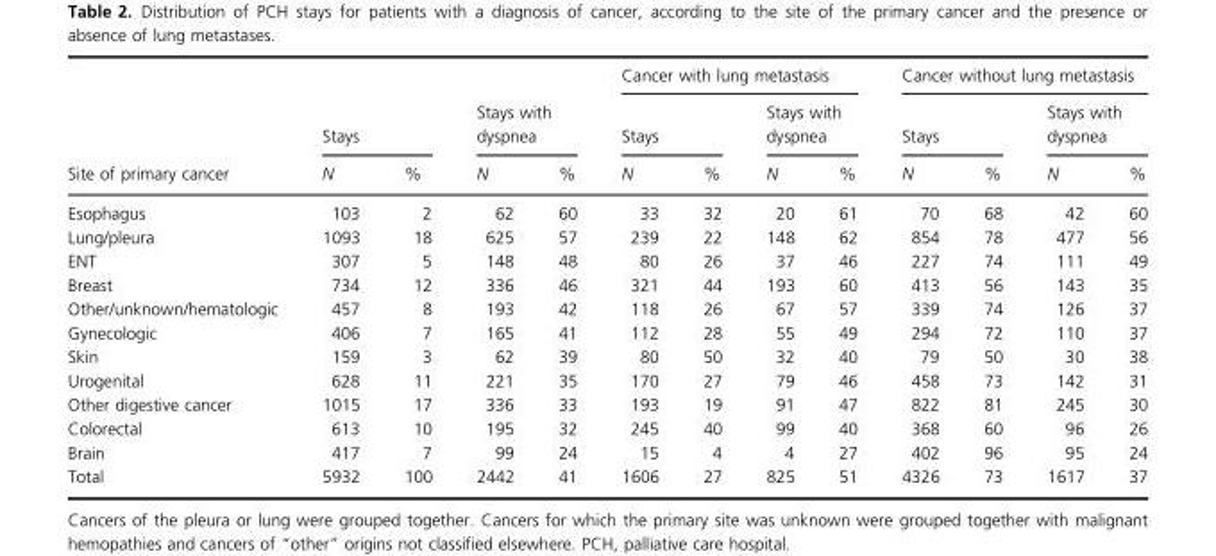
<table><thead><tr><td rowspan="3">Site of primary cancer</td><td></td><td></td><td></td><td></td><td colspan="4">Cancer with lung metastasis</td><td colspan="4">Cancer without lung metastasis</td></tr><tr><td colspan="2">Stays</td><td colspan="2">Stays with dyspnea</td><td colspan="2">Stays</td><td colspan="2">Stays with dyspnea</td><td colspan="2">Stays</td><td colspan="2">Stays with dyspnea</td></tr><tr><td>N</td><td>%</td><td>N</td><td>%</td><td>N</td><td>%</td><td>N</td><td>%</td><td>N</td><td>%</td><td>N</td><td>%</td></tr></thead><tbody><tr><td>Esophagus</td><td>103</td><td>2</td><td>62</td><td>60</td><td>33</td><td>32</td><td>20</td><td>61</td><td>70</td><td>68</td><td>42</td><td>60</td></tr><tr><td>Lung/pleura</td><td>1093</td><td>18</td><td>625</td><td>57</td><td>239</td><td>22</td><td>148</td><td>62</td><td>854</td><td>78</td><td>477</td><td>56</td></tr><tr><td>ENT</td><td>307</td><td>5</td><td>148</td><td>48</td><td>80</td><td>26</td><td>37</td><td>46</td><td>227</td><td>74</td><td>111</td><td>49</td></tr><tr><td>Breast</td><td>734</td><td>12</td><td>336</td><td>46</td><td>321</td><td>44</td><td>193</td><td>60</td><td>413</td><td>56</td><td>143</td><td>35</td></tr><tr><td>Other/unknown/hematologic</td><td>457</td><td>8</td><td>193</td><td>42</td><td>118</td><td>26</td><td>67</td><td>57</td><td>339</td><td>74</td><td>126</td><td>37</td></tr><tr><td>Gynecologic</td><td>406</td><td>7</td><td>165</td><td>41</td><td>112</td><td>28</td><td>55</td><td>49</td><td>294</td><td>72</td><td>110</td><td>37</td></tr><tr><td>Skin</td><td>159</td><td>3</td><td>62</td><td>39</td><td>80</td><td>50</td><td>32</td><td>40</td><td>79</td><td>50</td><td>30</td><td>38</td></tr><tr><td>Urogenital</td><td>628</td><td>11</td><td>221</td><td>35</td><td>170</td><td>27</td><td>79</td><td>46</td><td>458</td><td>73</td><td>142</td><td>31</td></tr><tr><td>Other digestive cancer</td><td>1015</td><td>17</td><td>336</td><td>33</td><td>193</td><td>19</td><td>91</td><td>47</td><td>822</td><td>81</td><td>245</td><td>30</td></tr><tr><td>Colorectal</td><td>613</td><td>10</td><td>195</td><td>32</td><td>245</td><td>40</td><td>99</td><td>40</td><td>368</td><td>60</td><td>96</td><td>26</td></tr><tr><td>Brain</td><td>417</td><td>7</td><td>99</td><td>24</td><td>15</td><td>4</td><td>4</td><td>27</td><td>402</td><td>96</td><td>95</td><td>24</td></tr><tr><td>Total</td><td>5932</td><td>100</td><td>2442</td><td>41</td><td>1606</td><td>27</td><td>825</td><td>51</td><td>4326</td><td>73</td><td>1617</td><td>37</td></tr></tbody></table>